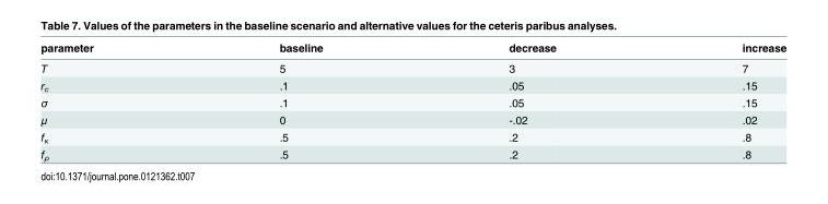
<table><thead><tr><td>parameter</td><td>baseline</td><td>decrease</td><td>increase</td></tr></thead><tbody><tr><td>T</td><td>5</td><td>3</td><td>7</td></tr><tr><td>r<sub>c</sub></td><td>.1</td><td>.05</td><td>.15</td></tr><tr><td>σ</td><td>.1</td><td>.05</td><td>.15</td></tr><tr><td>μ</td><td>0</td><td>-.02</td><td>.02</td></tr><tr><td>f<sub>κ</sub></td><td>.5</td><td>.2</td><td>.8</td></tr><tr><td>f<sub>ρ</sub></td><td>.5</td><td>.2</td><td>.8</td></tr></tbody></table>